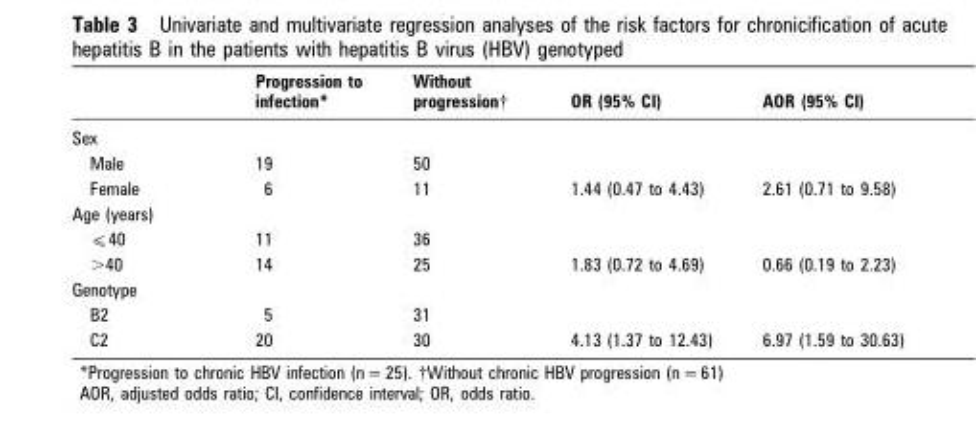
<table><thead><tr><td></td><td>Progression to infection*</td><td>Without progression†</td><td>OR (95% CI)</td><td>AOR (95% CI)</td></tr></thead><tbody><tr><td colspan="5">Sex</td></tr><tr><td>Male</td><td>19</td><td>50</td><td></td><td></td></tr><tr><td>Female</td><td>6</td><td>11</td><td>1.44 (0.47 to 4.43)</td><td>2.61 (0.71 to 9.58)</td></tr><tr><td colspan="5">Age (years)</td></tr><tr><td>⩽40</td><td>11</td><td>36</td><td></td><td></td></tr><tr><td>&gt;40</td><td>14</td><td>25</td><td>1.83 (0.72 to 4.69)</td><td>0.66 (0.19 to 2.23)</td></tr><tr><td colspan="5">Genotype</td></tr><tr><td>B2</td><td>5</td><td>31</td><td></td><td></td></tr><tr><td>C2</td><td>20</td><td>30</td><td>4.13 (1.37 to 12.43)</td><td>6.97 (1.59 to 30.63)</td></tr></tbody></table>